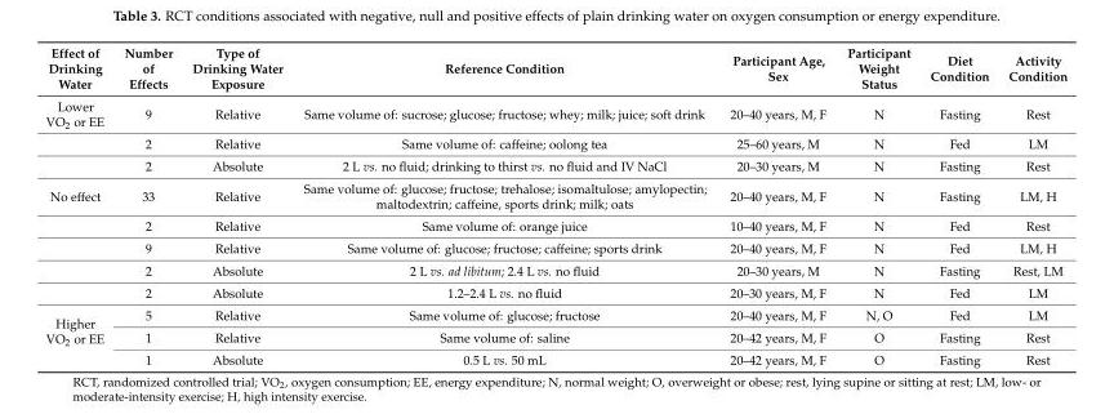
<table><thead><tr><td>Effect of Drinking Water</td><td>Number of Effects</td><td>Type of Drinking Water Exposure</td><td>Reference Condition</td><td>Participant Age, Sex</td><td>Participant Weight Status</td><td>Diet Condition</td><td>Activity Condition</td></tr></thead><tbody><tr><td rowspan="3">Lower VO<sub>2</sub> or EE</td><td>9</td><td>Relative</td><td>Same volume of: sucrose; glucose; fructose; whey; milk; juice; soft drink</td><td>20–40 years, M, F</td><td>N</td><td>Fasting</td><td>Rest</td></tr><tr><td>2</td><td>Relative</td><td>Same volume of: caffeine; oolong tea</td><td>25–60 years, M</td><td>N</td><td>Fed</td><td>LM</td></tr><tr><td>2</td><td>Absolute</td><td>2 L vs. no fluid; drinking to thirst vs. no fluid and IV NaCl</td><td>20–30 years, M</td><td>N</td><td>Fasting</td><td>Rest</td></tr><tr><td rowspan="5">No effect</td><td>33</td><td>Relative</td><td>Same volume of: glucose; fructose; trehalose; isomaltulose; amylopectin; maltodextrin; caffeine, sports drink; milk; oats</td><td>20–40 years, M, F</td><td>N</td><td>Fasting</td><td>LM, H</td></tr><tr><td>2</td><td>Relative</td><td>Same volume of: orange juice</td><td>10–40 years, M, F</td><td>N</td><td>Fed</td><td>Rest</td></tr><tr><td>9</td><td>Relative</td><td>Same volume of: glucose; fructose; caffeine; sports drink</td><td>20–40 years, M, F</td><td>N</td><td>Fed</td><td>LM, H</td></tr><tr><td>2</td><td>Absolute</td><td>2 L vs. ad libitum; 2.4 L vs. no fluid</td><td>20–30 years, M</td><td>N</td><td>Fasting</td><td>Rest, LM</td></tr><tr><td>2</td><td>Absolute</td><td>1.2–2.4 L vs. no fluid</td><td>20–30 years, M, F</td><td>N</td><td>Fed</td><td>LM</td></tr><tr><td rowspan="3">Higher VO<sub>2</sub> or EE</td><td>5</td><td>Relative</td><td>Same volume of: glucose; fructose</td><td>20–40 years, M, F</td><td>N, O</td><td>Fed</td><td>LM</td></tr><tr><td>1</td><td>Relative</td><td>Same volume of: saline</td><td>20–42 years, M, F</td><td>O</td><td>Fasting</td><td>Rest</td></tr><tr><td>1</td><td>Absolute</td><td>0.5 L vs. 50 mL</td><td>20–42 years, M, F</td><td>O</td><td>Fasting</td><td>Rest</td></tr></tbody></table>